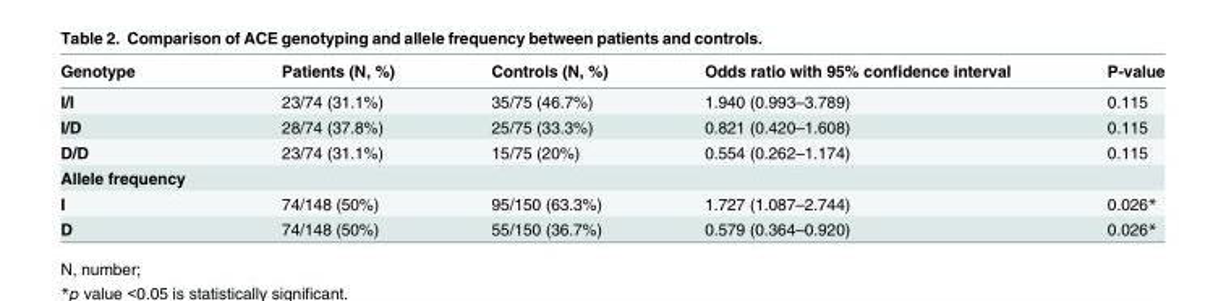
<table><thead><tr><td>Genotype</td><td>Patients (N, %)</td><td>Controls (N, %)</td><td>Odds ratio with 95% confidence interval</td><td>P-value</td></tr></thead><tbody><tr><td>I/I</td><td>23/74 (31.1%)</td><td>35/75 (46.7%)</td><td>1.940 (0.993–3.789)</td><td>0.115</td></tr><tr><td>I/D</td><td>28/74 (37.8%)</td><td>25/75 (33.3%)</td><td>0.821 (0.420–1.608)</td><td>0.115</td></tr><tr><td>D/D</td><td>23/74 (31.1%)</td><td>15/75 (20%)</td><td>0.554 (0.262–1.174)</td><td>0.115</td></tr><tr><td colspan="5">Allele frequency</td></tr><tr><td>I</td><td>74/148 (50%)</td><td>95/150 (63.3%)</td><td>1.727 (1.087–2.744)</td><td>0.026*</td></tr><tr><td>D</td><td>74/148 (50%)</td><td>55/150 (36.7%)</td><td>0.579 (0.364–0.920)</td><td>0.026*</td></tr></tbody></table>